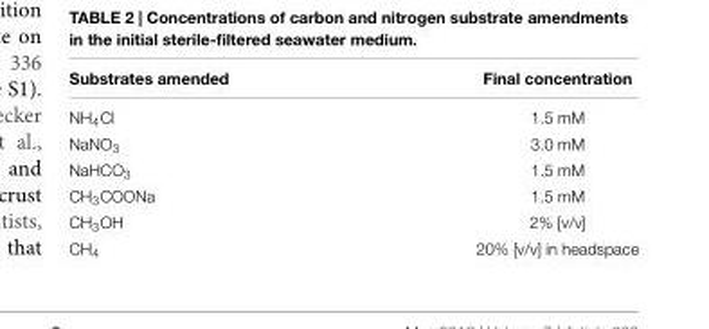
<table><thead><tr><td>Substrates amended</td><td>Final concentration</td></tr></thead><tbody><tr><td>NH<sub>4</sub>Cl</td><td>1.5 mM</td></tr><tr><td>NaNO<sub>3</sub></td><td>3.0 mM</td></tr><tr><td>NaHCO<sub>3</sub></td><td>1.5 mM</td></tr><tr><td>CH<sub>3</sub>COONa</td><td>1.5 mM</td></tr><tr><td>CH<sub>3</sub>OH</td><td>2% [v/v]</td></tr><tr><td>CH<sub>4</sub></td><td>20% [v/v] in headspace</td></tr></tbody></table>